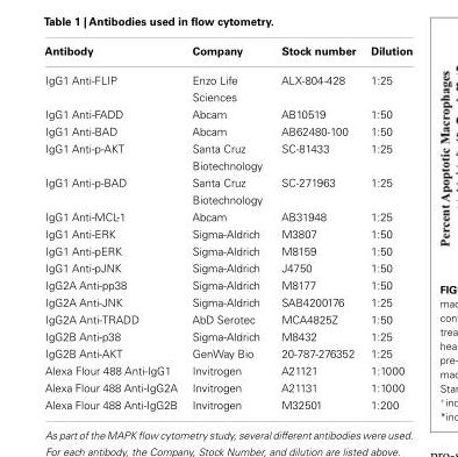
<table><thead><tr><td>Antibody</td><td>Company</td><td>Stock number</td><td>Dilution</td></tr></thead><tbody><tr><td>IgG1 Anti-FLIP</td><td>Enzo Life Sciences</td><td>ALX-804-428</td><td>1:25</td></tr><tr><td>IgG1 Anti-FADD</td><td>Abcam</td><td>AB10519</td><td>1:50</td></tr><tr><td>IgG1 Anti-BAD</td><td>Abcam</td><td>AB62480-100</td><td>1:50</td></tr><tr><td>IgG1 Anti-p-AKT</td><td>Santa Cruz Biotechnology</td><td>SC-81433</td><td>1:25</td></tr><tr><td>IgG1 Anti-p-BAD</td><td>Santa Cruz Biotechnology</td><td>SC-271963</td><td>1:25</td></tr><tr><td>IgG1 Anti-MCL-1</td><td>Abcam</td><td>AB31948</td><td>1:25</td></tr><tr><td>IgG1 Anti-ERK</td><td>Sigma-Aldrich</td><td>M3807</td><td>1:50</td></tr><tr><td>IgG1 Anti-pERK</td><td>Sigma-Aldrich</td><td>M8159</td><td>1:50</td></tr><tr><td>IgG1 Anti-pJNK</td><td>Sigma-Aldrich</td><td>J4750</td><td>1:50</td></tr><tr><td>IgG2A Anti-pp38</td><td>Sigma-Aldrich</td><td>M8177</td><td>1:50</td></tr><tr><td>IgG2A Anti-JNK</td><td>Sigma-Aldrich</td><td>SAB4200176</td><td>1:25</td></tr><tr><td>IgG2A Anti-TRADD</td><td>AbD Serotec</td><td>MCA4825Z</td><td>1:50</td></tr><tr><td>IgG2B Anti-p38</td><td>Sigma-Aldrich</td><td>M8432</td><td>1:25</td></tr><tr><td>IgG2B Anti-AKT</td><td>GenWay Bio</td><td>20-787-276352</td><td>1:25</td></tr><tr><td>Alexa Flour 488 Anti-IgG1</td><td>Invitrogen</td><td>A21121</td><td>1:1000</td></tr><tr><td>Alexa Flour 488 Anti-IgG2A</td><td>Invitrogen</td><td>A21131</td><td>1:1000</td></tr><tr><td>Alexa Flour 488 Anti-IgG2B</td><td>Invitrogen</td><td>M32501</td><td>1:200</td></tr></tbody></table>